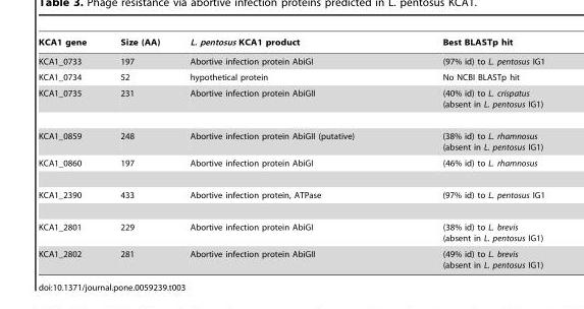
<table><thead><tr><td>KCA1 gene</td><td>Size (AA)</td><td>L. pentosus KCA1 product</td><td>Best BLASTp hit</td></tr></thead><tbody><tr><td>KCA1_0733</td><td>197</td><td>Abortive infection protein AbiGI</td><td>(97% id) to L. pentosus IG1</td></tr><tr><td>KCA1_0734</td><td>52</td><td>hypothetical protein</td><td>No NCBI BLASTp hit</td></tr><tr><td>KCA1_0735</td><td>231</td><td>Abortive infection protein AbiGII</td><td>(40% id) to L. crispatus (absent in L. pentosus IG1)</td></tr><tr><td>KCA1_0859</td><td>248</td><td>Abortive infection protein AbiGII (putative)</td><td>(38% id) to L. rhamnosus (absent in L. pentosus IG1)</td></tr><tr><td>KCA1_0860</td><td>197</td><td>Abortive infection protein AbiGI</td><td>(46% id) to L. rhamnosus</td></tr><tr><td>KCA1_2390</td><td>433</td><td>Abortive infection protein, ATPase</td><td>(97% id) to L. pentosus IG1</td></tr><tr><td>KCA1_2801</td><td>229</td><td>Abortive infection protein AbiGI</td><td>(38% id) to L. brevis (absent in L. pentosus IG1)</td></tr><tr><td>KCA1_2802</td><td>281</td><td>Abortive infection protein AbiGII</td><td>(49% id) to L. brevis (absent in L. pentosus IG1)</td></tr></tbody></table>